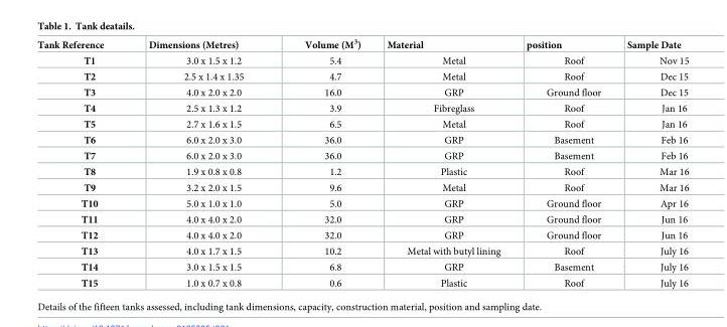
<table><thead><tr><td>Tank Reference</td><td>Dimensions (Metres)</td><td>Volume (M<sup>3</sup>)</td><td>Material</td><td>position</td><td>Sample Date</td></tr></thead><tbody><tr><td>T1</td><td>3.0 x 1.5 x 1.2</td><td>5.4</td><td>Metal</td><td>Roof</td><td>Nov 15</td></tr><tr><td>T2</td><td>2.5 x 1.4 x 1.35</td><td>4.7</td><td>Metal</td><td>Roof</td><td>Dec 15</td></tr><tr><td>T3</td><td>4.0 x 2.0 x 2.0</td><td>16.0</td><td>GRP</td><td>Ground floor</td><td>Dec 15</td></tr><tr><td>T4</td><td>2.5 x 1.3 x 1.2</td><td>3.9</td><td>Fibreglass</td><td>Roof</td><td>Jan 16</td></tr><tr><td>T5</td><td>2.7 x 1.6 x 1.5</td><td>6.5</td><td>Metal</td><td>Roof</td><td>Jan 16</td></tr><tr><td>T6</td><td>6.0 x 2.0 x 3.0</td><td>36.0</td><td>GRP</td><td>Basement</td><td>Feb 16</td></tr><tr><td>T7</td><td>6.0 x 2.0 x 3.0</td><td>36.0</td><td>GRP</td><td>Basement</td><td>Feb 16</td></tr><tr><td>T8</td><td>1.9 x 0.8 x 0.8</td><td>1.2</td><td>Plastic</td><td>Roof</td><td>Mar 16</td></tr><tr><td>T9</td><td>3.2 x 2.0 x 1.5</td><td>9.6</td><td>Metal</td><td>Roof</td><td>Mar 16</td></tr><tr><td>T10</td><td>5.0 x 1.0 x 1.0</td><td>5.0</td><td>GRP</td><td>Ground floor</td><td>Apr 16</td></tr><tr><td>T11</td><td>4.0 x 4.0 x 2.0</td><td>32.0</td><td>GRP</td><td>Ground floor</td><td>Jun 16</td></tr><tr><td>T12</td><td>4.0 x 4.0 x 2.0</td><td>32.0</td><td>GRP</td><td>Ground floor</td><td>Jun 16</td></tr><tr><td>T13</td><td>4.0 x 1.7 x 1.5</td><td>10.2</td><td>Metal with butyl lining</td><td>Roof</td><td>July 16</td></tr><tr><td>T14</td><td>3.0 x 1.5 x 1.5</td><td>6.8</td><td>GRP</td><td>Basement</td><td>July 16</td></tr><tr><td>T15</td><td>1.0 x 0.7 x 0.8</td><td>0.6</td><td>Plastic</td><td>Roof</td><td>July 16</td></tr></tbody></table>